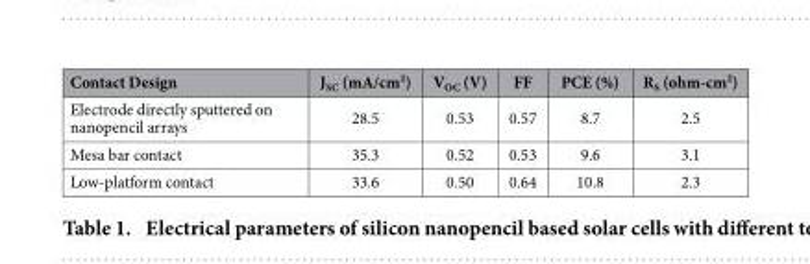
<table><thead><tr><td>Contact Design</td><td>J<sub>SC</sub> (mA/cm<sup>2</sup>)</td><td>V<sub>OC</sub> (V)</td><td>FF</td><td>PCE (%)</td><td>R<sub>S</sub> (ohm-cm<sup>2</sup>)</td></tr></thead><tbody><tr><td>Electrode directly sputtered on nanopencil arrays</td><td>28.5</td><td>0.53</td><td>0.57</td><td>8.7</td><td>2.5</td></tr><tr><td>Mesa bar contact</td><td>35.3</td><td>0.52</td><td>0.53</td><td>9.6</td><td>3.1</td></tr><tr><td>Low-platform contact</td><td>33.6</td><td>0.50</td><td>0.64</td><td>10.8</td><td>2.3</td></tr></tbody></table>